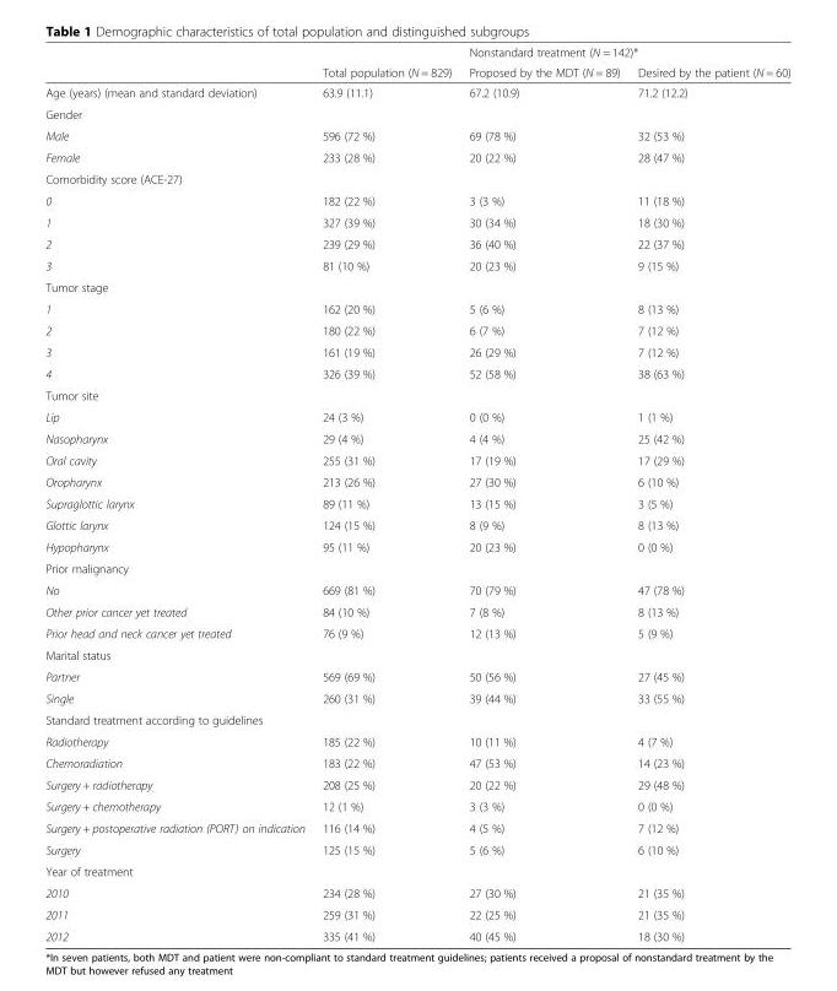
<table><thead><tr><td rowspan="2"></td><td rowspan="2">Total population (N = 829)</td><td colspan="2">Nonstandard treatment (N = 142)*</td></tr><tr><td>Proposed by the MDT (N = 89)</td><td>Desired by the patient (N = 60)</td></tr></thead><tbody><tr><td>Age (years) (mean and standard deviation)</td><td>63.9 (11.1)</td><td>67.2 (10.9)</td><td>71.2 (12.2)</td></tr><tr><td colspan="4">Gender</td></tr><tr><td>Male</td><td>596 (72 %)</td><td>69 (78 %)</td><td>32 (53 %)</td></tr><tr><td>Female</td><td>233 (28 %)</td><td>20 (22 %)</td><td>28 (47 %)</td></tr><tr><td colspan="4">Comorbidity score (ACE-27)</td></tr><tr><td>0</td><td>182 (22 %)</td><td>3 (3 %)</td><td>11 (18 %)</td></tr><tr><td>1</td><td>327 (39 %)</td><td>30 (34 %)</td><td>18 (30 %)</td></tr><tr><td>2</td><td>239 (29 %)</td><td>36 (40 %)</td><td>22 (37 %)</td></tr><tr><td>3</td><td>81 (10 %)</td><td>20 (23 %)</td><td>9 (15 %)</td></tr><tr><td colspan="4">Tumor stage</td></tr><tr><td>1</td><td>162 (20 %)</td><td>5 (6 %)</td><td>8 (13 %)</td></tr><tr><td>2</td><td>180 (22 %)</td><td>6 (7 %)</td><td>7 (12 %)</td></tr><tr><td>3</td><td>161 (19 %)</td><td>26 (29 %)</td><td>7 (12 %)</td></tr><tr><td>4</td><td>326 (39 %)</td><td>52 (58 %)</td><td>38 (63 %)</td></tr><tr><td colspan="4">Tumor site</td></tr><tr><td>Lip</td><td>24 (3 %)</td><td>0 (0 %)</td><td>1 (1 %)</td></tr><tr><td>Nasopharynx</td><td>29 (4 %)</td><td>4 (4 %)</td><td>25 (42 %)</td></tr><tr><td>Oral cavity</td><td>255 (31 %)</td><td>17 (19 %)</td><td>17 (29 %)</td></tr><tr><td>Oropharynx</td><td>213 (26 %)</td><td>27 (30 %)</td><td>6 (10 %)</td></tr><tr><td>Supraglottic larynx</td><td>89 (11 %)</td><td>13 (15 %)</td><td>3 (5 %)</td></tr><tr><td>Glottic larynx</td><td>124 (15 %)</td><td>8 (9 %)</td><td>8 (13 %)</td></tr><tr><td>Hypopharynx</td><td>95 (11 %)</td><td>20 (23 %)</td><td>0 (0 %)</td></tr><tr><td colspan="4">Prior malignancy</td></tr><tr><td>No</td><td>669 (81 %)</td><td>70 (79 %)</td><td>47 (78 %)</td></tr><tr><td>Other prior cancer yet treated</td><td>84 (10 %)</td><td>7 (8 %)</td><td>8 (13 %)</td></tr><tr><td>Prior head and neck cancer yet treated</td><td>76 (9 %)</td><td>12 (13 %)</td><td>5 (9 %)</td></tr><tr><td colspan="4">Marital status</td></tr><tr><td>Partner</td><td>569 (69 %)</td><td>50 (56 %)</td><td>27 (45 %)</td></tr><tr><td>Single</td><td>260 (31 %)</td><td>39 (44 %)</td><td>33 (55 %)</td></tr><tr><td colspan="4">Standard treatment according to guidelines</td></tr><tr><td>Radiotherapy</td><td>185 (22 %)</td><td>10 (11 %)</td><td>4 (7 %)</td></tr><tr><td>Chemoradiation</td><td>183 (22 %)</td><td>47 (53 %)</td><td>14 (23 %)</td></tr><tr><td>Surgery + radiotherapy</td><td>208 (25 %)</td><td>20 (22 %)</td><td>29 (48 %)</td></tr><tr><td>Surgery + chemotherapy</td><td>12 (1 %)</td><td>3 (3 %)</td><td>0 (0 %)</td></tr><tr><td>Surgery + postoperative radiation (PORT) on indication</td><td>116 (14 %)</td><td>4 (5 %)</td><td>7 (12 %)</td></tr><tr><td>Surgery</td><td>125 (15 %)</td><td>5 (6 %)</td><td>6 (10 %)</td></tr><tr><td colspan="4">Year of treatment</td></tr><tr><td>2010</td><td>234 (28 %)</td><td>27 (30 %)</td><td>21 (35 %)</td></tr><tr><td>2011</td><td>259 (31 %)</td><td>22 (25 %)</td><td>21 (35 %)</td></tr><tr><td>2012</td><td>335 (41 %)</td><td>40 (45 %)</td><td>18 (30 %)</td></tr></tbody></table>